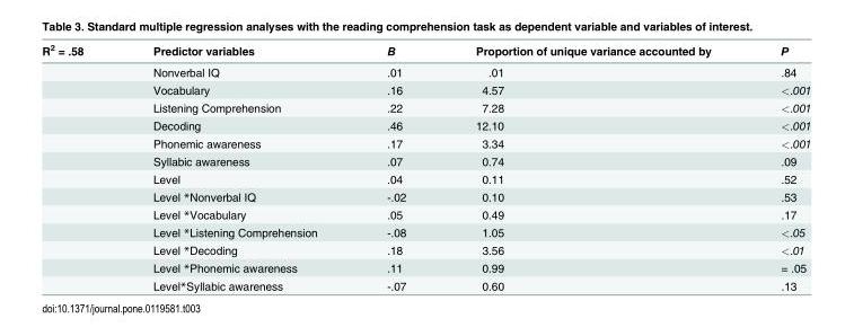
<table><thead><tr><td>R<sup>2</sup> = .58</td><td>Predictor variables</td><td>Β</td><td>Proportion of unique variance accounted by</td><td>P</td></tr></thead><tbody><tr><td></td><td>Nonverbal IQ</td><td>.01</td><td>.01</td><td>.84</td></tr><tr><td></td><td>Vocabulary</td><td>.16</td><td>4.57</td><td>&lt;.001</td></tr><tr><td></td><td>Listening Comprehension</td><td>.22</td><td>7.28</td><td>&lt;.001</td></tr><tr><td></td><td>Decoding</td><td>.46</td><td>12.10</td><td>&lt;.001</td></tr><tr><td></td><td>Phonemic awareness</td><td>.17</td><td>3.34</td><td>&lt;.001</td></tr><tr><td></td><td>Syllabic awareness</td><td>.07</td><td>0.74</td><td>.09</td></tr><tr><td></td><td>Level</td><td>.04</td><td>0.11</td><td>.52</td></tr><tr><td></td><td>Level *Nonverbal IQ</td><td>-.02</td><td>0.10</td><td>.53</td></tr><tr><td></td><td>Level *Vocabulary</td><td>.05</td><td>0.49</td><td>.17</td></tr><tr><td></td><td>Level *Listening Comprehension</td><td>-.08</td><td>1.05</td><td>&lt;.05</td></tr><tr><td></td><td>Level *Decoding</td><td>.18</td><td>3.56</td><td>&lt;.01</td></tr><tr><td></td><td>Level *Phonemic awareness</td><td>.11</td><td>0.99</td><td>= .05</td></tr><tr><td></td><td>Level*Syllabic awareness</td><td>-.07</td><td>0.60</td><td>.13</td></tr></tbody></table>